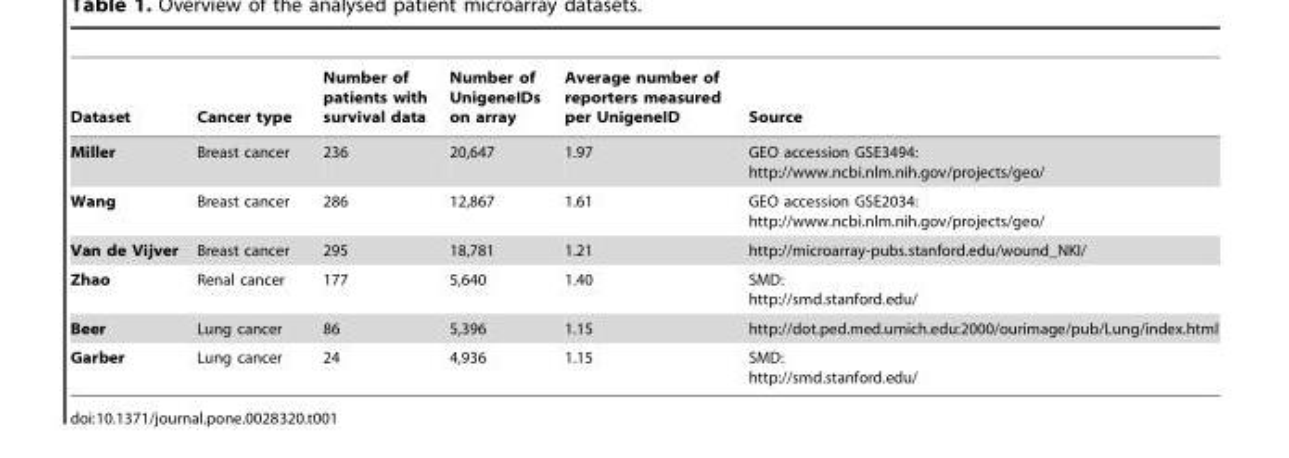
<table><thead><tr><td>Dataset</td><td>Cancer type</td><td>Number of patients with survival data</td><td>Number of UnigeneIDs on array</td><td>Average number of reporters measured per UnigeneID</td><td>Source</td></tr></thead><tbody><tr><td>Miller</td><td>Breast cancer</td><td>236</td><td>20,647</td><td>1.97</td><td>GEO accession GSE3494: http://www.ncbi.nlm.nih.gov/projects/geo/</td></tr><tr><td>Wang</td><td>Breast cancer</td><td>286</td><td>12,867</td><td>1.61</td><td>GEO accession GSE2034: http://www.ncbi.nlm.nih.gov/projects/geo/</td></tr><tr><td>Van de Vijver</td><td>Breast cancer</td><td>295</td><td>18,781</td><td>1.21</td><td>http://microarray-pubs.stanford.edu/wound_NKI/</td></tr><tr><td>Zhao</td><td>Renal cancer</td><td>177</td><td>5,640</td><td>1.40</td><td>SMD: http://smd.stanford.edu/</td></tr><tr><td>Beer</td><td>Lung cancer</td><td>86</td><td>5,396</td><td>1.15</td><td>http://dot.ped.med.umich.edu:2000/ourimage/pub/Lung/index.html</td></tr><tr><td>Garber</td><td>Lung cancer</td><td>24</td><td>4,936</td><td>1.15</td><td>SMD: http://smd.stanford.edu/</td></tr></tbody></table>